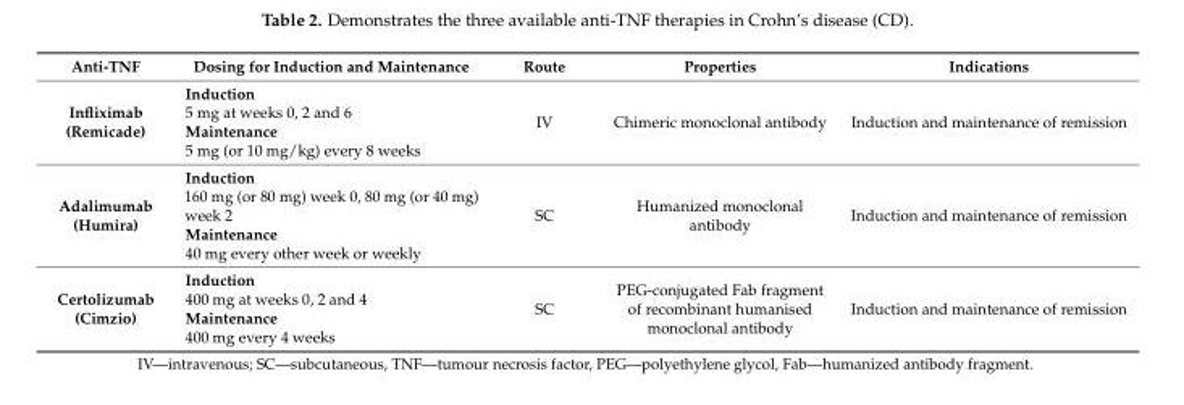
<table><thead><tr><td>Anti-TNF</td><td>Dosing for Induction and Maintenance</td><td>Route</td><td>Properties</td><td>Indications</td></tr></thead><tbody><tr><td>Infliximab (Remicade)</td><td>Induction 5 mg at weeks 0, 2 and 6 Maintenance 5 mg (or 10 mg/kg) every 8 weeks</td><td>IV</td><td>Chimeric monoclonal antibody</td><td>Induction and maintenance of remission</td></tr><tr><td>Adalimumab (Humira)</td><td>Induction 160 mg (or 80 mg) week 0, 80 mg (or 40 mg) week 2 Maintenance 40 mg every other week or weekly</td><td>SC</td><td>Humanized monoclonal antibody</td><td>Induction and maintenance of remission</td></tr><tr><td>Certolizumab (Cimzio)</td><td>Induction 400 mg at weeks 0, 2 and 4 Maintenance 400 mg every 4 weeks</td><td>SC</td><td>PEG-conjugated Fab fragment of recombinant humanised monoclonal antibody</td><td>Induction and maintenance of remission</td></tr></tbody></table>